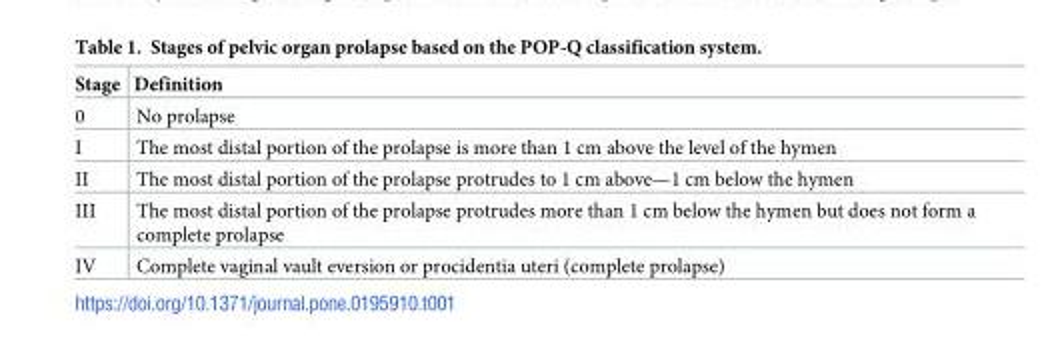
<table><thead><tr><td>Stage</td><td>Definition</td></tr></thead><tbody><tr><td>0</td><td>No prolapse</td></tr><tr><td>I</td><td>The most distal portion of the prolapse is more than 1 cm above the level of the hymen</td></tr><tr><td>II</td><td>The most distal portion of the prolapse protrudes to 1 cm above—1 cm below the hymen</td></tr><tr><td>III</td><td>The most distal portion of the prolapse protrudes more than 1 cm below the hymen but does not form a complete prolapse</td></tr><tr><td>IV</td><td>Complete vaginal vault eversion or procidentia uteri (complete prolapse)</td></tr></tbody></table>